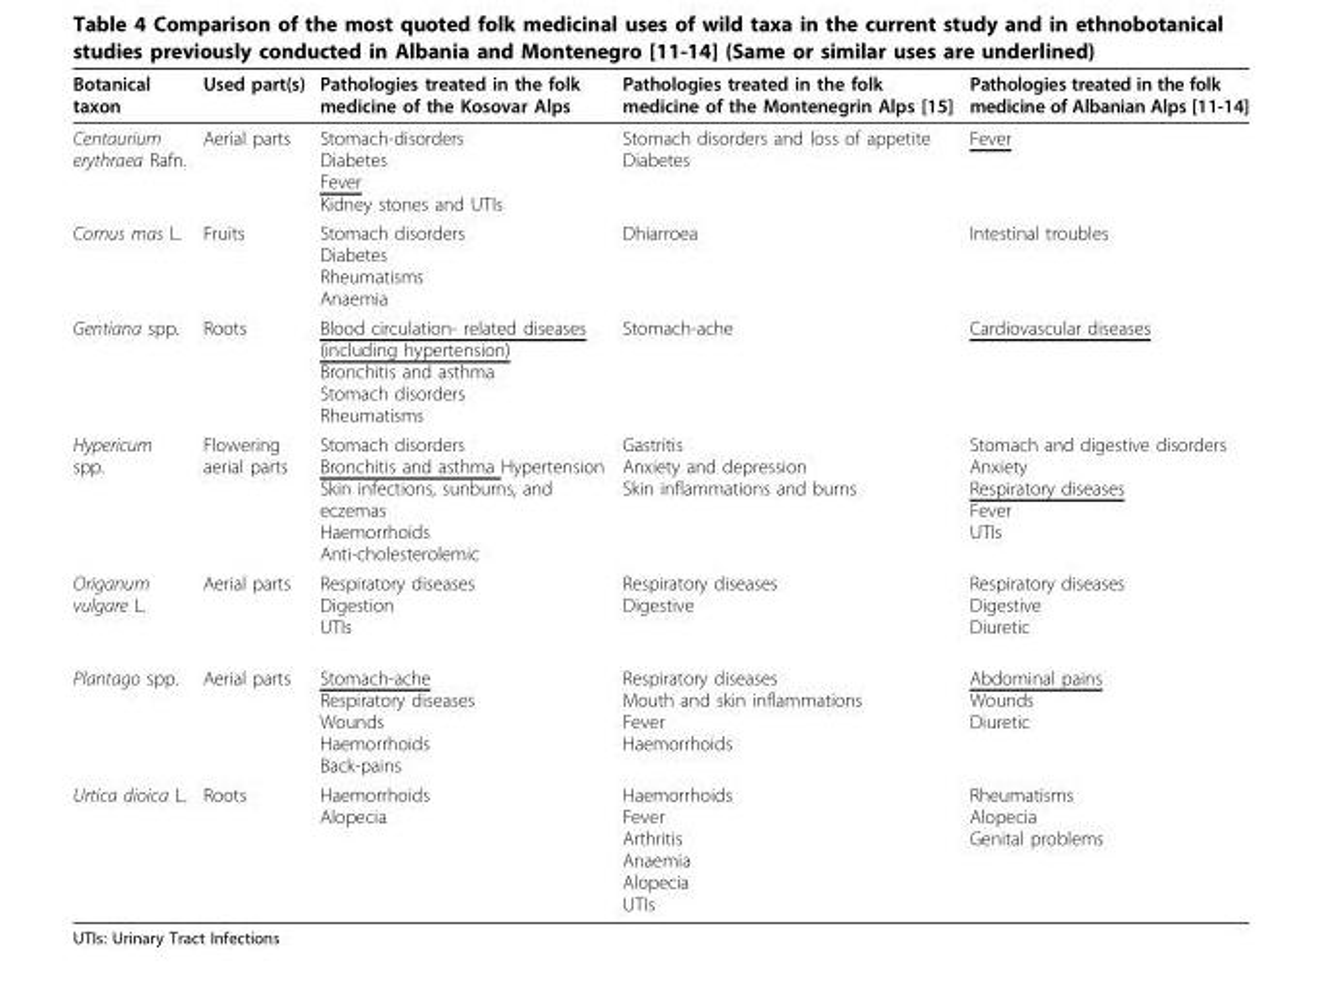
<table><thead><tr><td>Botanical taxon</td><td>Used part(s)</td><td>Pathologies treated in the folk medicine of the Kosovar Alps</td><td>Pathologies treated in the folk medicine of the Montenegrin Alps [15]</td><td>Pathologies treated in the folk medicine of Albanian Alps [11-14]</td></tr></thead><tbody><tr><td>Centaurium erythraea Rafn.</td><td>Aerial parts</td><td>Stomach-disorders Diabetes Fever Kidney stones and UTIs</td><td>Stomach disorders and loss of appetite Diabetes</td><td>Fever</td></tr><tr><td>Cornus mas L.</td><td>Fruits</td><td>Stomach disorders Diabetes Rheumatisms Anaemia</td><td>Dhiarroea</td><td>Intestinal troubles</td></tr><tr><td>Gentiana spp.</td><td>Roots</td><td>Blood circulation- related diseases (including hypertension) Bronchitis and asthma Stomach disorders Rheumatisms</td><td>Stomach-ache</td><td>Cardiovascular diseases</td></tr><tr><td>Hypericum spp.</td><td>Flowering aerial parts</td><td>Stomach disorders Bronchitis and asthma Hypertension Skin infections, sunburns, and eczemas Haemorrhoids Anti-cholesterolemic</td><td>Gastritis Anxiety and depression Skin inflammations and burns</td><td>Stomach and digestive disorders Anxiety Respiratory diseases Fever UTIs</td></tr><tr><td>Origanum vulgare L.</td><td>Aerial parts</td><td>Respiratory diseases Digestion UTIs</td><td>Respiratory diseases Digestive</td><td>Respiratory diseases Digestive Diuretic</td></tr><tr><td>Plantago spp.</td><td>Aerial parts</td><td>Stomach-ache Respiratory diseases Wounds Haemorrhoids Back-pains</td><td>Respiratory diseases Mouth and skin inflammations Fever Haemorrhoids</td><td>Abdominal pains Wounds Diuretic</td></tr><tr><td>Urtica dioica L.</td><td>Roots</td><td>Haemorrhoids Alopecia</td><td>Haemorrhoids Fever Arthritis Anaemia Alopecia UTIs</td><td>Rheumatisms Alopecia Genital problems</td></tr></tbody></table>